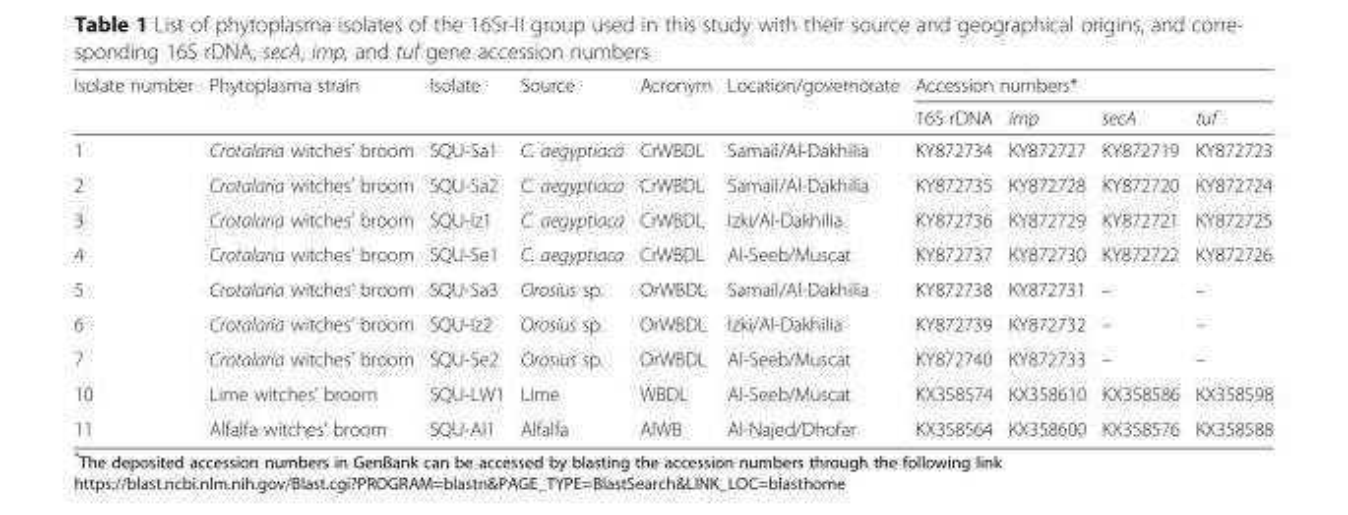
<table><thead><tr><td rowspan="2">Isolate number</td><td rowspan="2">Phytoplasma strain</td><td rowspan="2">Isolate</td><td rowspan="2">Source</td><td rowspan="2">Acronym</td><td rowspan="2">Location/governorate</td><td colspan="4">Accession numbers*</td></tr><tr><td>16S rDNA</td><td>imp</td><td>secA</td><td>tuf</td></tr></thead><tbody><tr><td>1</td><td>Crotalaria witches’ broom</td><td>SQU-Sa1</td><td>C. aegyptiaca</td><td>CrWBDL</td><td>Samail/Al-Dakhilia</td><td>KY872734</td><td>KY872727</td><td>KY872719</td><td>KY872723</td></tr><tr><td>2</td><td>Crotalaria witches’ broom</td><td>SQU-Sa2</td><td>C. aegyptiaca</td><td>CrWBDL</td><td>Samail/Al-Dakhilia</td><td>KY872735</td><td>KY872728</td><td>KY872720</td><td>KY872724</td></tr><tr><td>3</td><td>Crotalaria witches’ broom</td><td>SQU-Iz1</td><td>C. aegyptiaca</td><td>CrWBDL</td><td>Izki/Al-Dakhilia</td><td>KY872736</td><td>KY872729</td><td>KY872721</td><td>KY872725</td></tr><tr><td>4</td><td>Crotalaria witches’ broom</td><td>SQU-Se1</td><td>C. aegyptiaca</td><td>CrWBDL</td><td>Al-Seeb/Muscat</td><td>KY872737</td><td>KY872730</td><td>KY872722</td><td>KY872726</td></tr><tr><td>5</td><td>Crotalaria witches’ broom</td><td>SQU-Sa3</td><td>Orosius sp.</td><td>OrWBDL</td><td>Samail/Al-Dakhilia</td><td>KY872738</td><td>KY872731</td><td>–</td><td>–</td></tr><tr><td>6</td><td>Crotalaria witches’ broom</td><td>SQU-Iz2</td><td>Orosius sp.</td><td>OrWBDL</td><td>Izki/Al-Dakhilia</td><td>KY872739</td><td>KY872732</td><td>–</td><td>–</td></tr><tr><td>7</td><td>Crotalaria witches’ broom</td><td>SQU-Se2</td><td>Orosius sp.</td><td>OrWBDL</td><td>Al-Seeb/Muscat</td><td>KY872740</td><td>KY872733</td><td>–</td><td>–</td></tr><tr><td>10</td><td>Lime witches’ broom</td><td>SQU-LW1</td><td>Lime</td><td>WBDL</td><td>Al-Seeb/Muscat</td><td>KX358574</td><td>KX358610</td><td>KX358586</td><td>KX358598</td></tr><tr><td>11</td><td>Alfalfa witches’ broom</td><td>SQU-Al1</td><td>Alfalfa</td><td>AlWB</td><td>Al-Najed/Dhofar</td><td>KX358564</td><td>KX358600</td><td>KX358576</td><td>KX358588</td></tr></tbody></table>